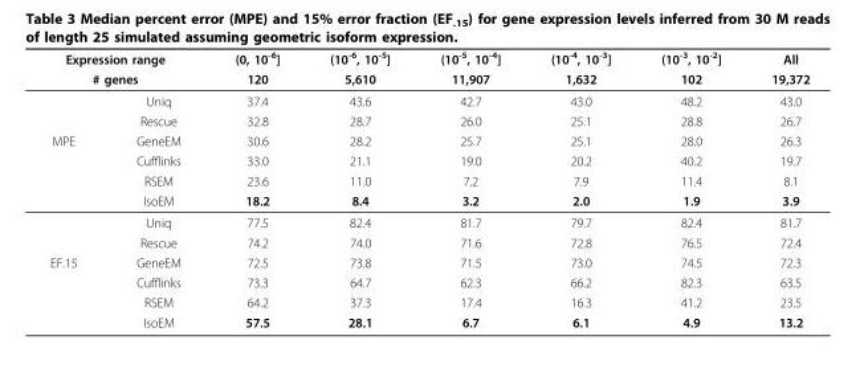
<table><thead><tr><td rowspan="2" colspan="2">Expression range # genes</td><td rowspan="3">(0, 10-6] 120 37.4</td><td rowspan="3">(10-6, 10-5] 5,610 43.6</td><td rowspan="3">(10-5, 10-4] 11,907 42.7</td><td rowspan="3">(10-4, 10-3] 1,632 43.0</td><td rowspan="3">(10-3, 10-2] 102 48.2</td><td rowspan="3">All 19,372 43.0</td></tr><tr></tr><tr><td></td><td>Uniq</td></tr></thead><tbody><tr><td></td><td>Rescue</td><td>32.8</td><td>28.7</td><td>26.0</td><td>25.1</td><td>28.8</td><td>26.7</td></tr><tr><td rowspan="6">MPE</td><td>GeneEM</td><td>30.6</td><td>28.2</td><td>25.7</td><td>25.1</td><td>28.0</td><td>26.3</td></tr><tr><td>Cufflinks</td><td>33.0</td><td>21.1</td><td>19.0</td><td>20.2</td><td>40.2</td><td>19.7</td></tr><tr><td>RSEM</td><td>23.6</td><td>11.0</td><td>7.2</td><td>7.9</td><td>11.4</td><td>8.1</td></tr><tr><td>IsoEM</td><td>18.2</td><td>8.4</td><td>3.2</td><td>2.0</td><td>1.9</td><td>3.9</td></tr><tr><td>Uniq</td><td>77.5</td><td>82.4</td><td>81.7</td><td>79.7</td><td>82.4</td><td>81.7</td></tr><tr><td>Rescue</td><td>74.2</td><td>74.0</td><td>71.6</td><td>72.8</td><td>76.5</td><td>72.4</td></tr><tr><td rowspan="4">EF.15</td><td>GeneEM</td><td>72.5</td><td>73.8</td><td>71.5</td><td>73.0</td><td>74.5</td><td>72.3</td></tr><tr><td>Cufflinks</td><td>73.3</td><td>64.7</td><td>62.3</td><td>66.2</td><td>82.3</td><td>63.5</td></tr><tr><td>RSEM</td><td>64.2</td><td>37.3</td><td>17.4</td><td>16.3</td><td>41.2</td><td>23.5</td></tr><tr><td>IsoEM</td><td>57.5</td><td>28.1</td><td>6.7</td><td>6.1</td><td>4.9</td><td>13.2</td></tr></tbody></table>